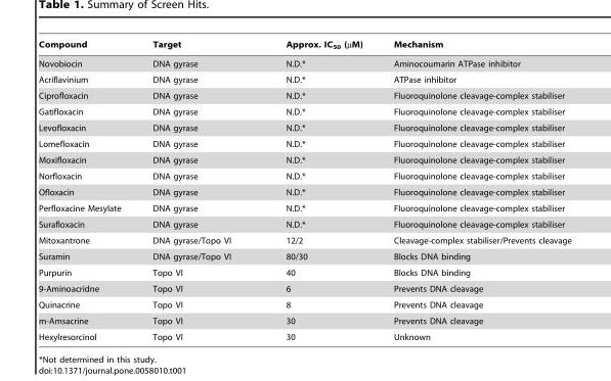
<table><thead><tr><td>Compound</td><td>Target</td><td>Approx. IC<sub>50</sub> (µM)</td><td>Mechanism</td></tr></thead><tbody><tr><td>Novobiocin</td><td>DNA gyrase</td><td>N.D.*</td><td>Aminocoumarin ATPase inhibitor</td></tr><tr><td>Acriflavinium</td><td>DNA gyrase</td><td>N.D.*</td><td>ATPase inhibitor</td></tr><tr><td>Ciprofloxacin</td><td>DNA gyrase</td><td>N.D.*</td><td>Fluoroquinolone cleavage-complex stabiliser</td></tr><tr><td>Gatifloxacin</td><td>DNA gyrase</td><td>N.D.*</td><td>Fluoroquinolone cleavage-complex stabiliser</td></tr><tr><td>Levofloxacin</td><td>DNA gyrase</td><td>N.D.*</td><td>Fluoroquinolone cleavage-complex stabiliser</td></tr><tr><td>Lomefloxacin</td><td>DNA gyrase</td><td>N.D.*</td><td>Fluoroquinolone cleavage-complex stabiliser</td></tr><tr><td>Moxifloxacin</td><td>DNA gyrase</td><td>N.D.*</td><td>Fluoroquinolone cleavage-complex stabiliser</td></tr><tr><td>Norfloxacin</td><td>DNA gyrase</td><td>N.D.*</td><td>Fluoroquinolone cleavage-complex stabiliser</td></tr><tr><td>Ofloxacin</td><td>DNA gyrase</td><td>N.D.*</td><td>Fluoroquinolone cleavage-complex stabiliser</td></tr><tr><td>Perfloxacine Mesylate</td><td>DNA gyrase</td><td>N.D.*</td><td>Fluoroquinolone cleavage-complex stabiliser</td></tr><tr><td>Surafloxacin</td><td>DNA gyrase</td><td>N.D.*</td><td>Fluoroquinolone cleavage-complex stabiliser</td></tr><tr><td>Mitoxantrone</td><td>DNA gyrase/Topo VI</td><td>12/2</td><td>Cleavage-complex stabiliser/Prevents cleavage</td></tr><tr><td>Suramin</td><td>DNA gyrase/Topo VI</td><td>80/30</td><td>Blocks DNA binding</td></tr><tr><td>Purpurin</td><td>Topo VI</td><td>40</td><td>Blocks DNA binding</td></tr><tr><td>9-Aminoacridne</td><td>Topo VI</td><td>6</td><td>Prevents DNA cleavage</td></tr><tr><td>Quinacrine</td><td>Topo VI</td><td>8</td><td>Prevents DNA cleavage</td></tr><tr><td>m-Amsacrine</td><td>Topo VI</td><td>30</td><td>Prevents DNA cleavage</td></tr><tr><td>Hexylresorcinol</td><td>Topo VI</td><td>30</td><td>Unknown</td></tr></tbody></table>